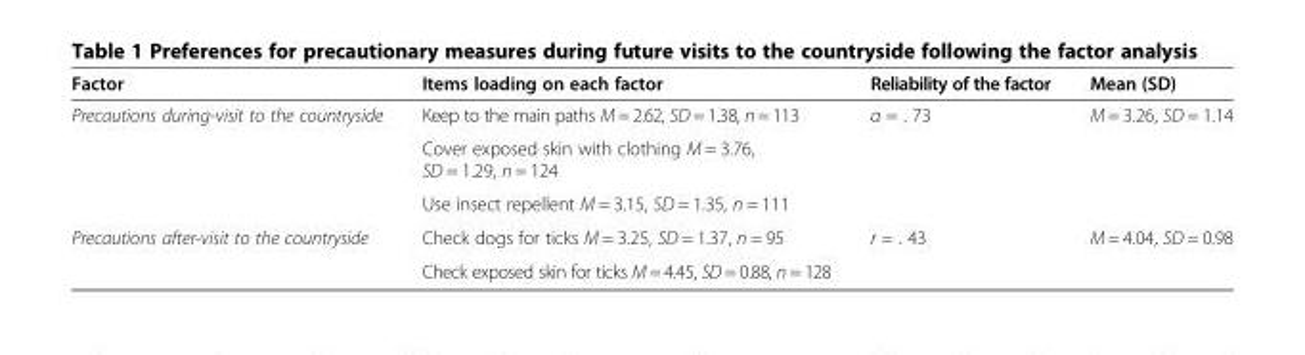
<table><thead><tr><td>Factor</td><td>Items loading on each factor</td><td>Reliability of the factor</td><td>Mean (SD)</td></tr></thead><tbody><tr><td rowspan="3">Precautions during-visit to the countryside</td><td>Keep to the main paths M = 2.62, SD = 1.38, n = 113</td><td rowspan="3">α = . 73</td><td rowspan="3">M = 3.26, SD = 1.14</td></tr><tr><td>Cover exposed skin with clothing M = 3.76, SD = 1.29, n = 124</td></tr><tr><td>Use insect repellent M = 3.15, SD = 1.35, n = 111</td></tr><tr><td rowspan="2">Precautions after-visit to the countryside</td><td>Check dogs for ticks M = 3.25, SD = 1.37, n = 95</td><td rowspan="2">r = . 43</td><td rowspan="2">M = 4.04, SD = 0.98</td></tr><tr><td>Check exposed skin for ticks M = 4.45, SD = 0.88, n = 128</td></tr></tbody></table>